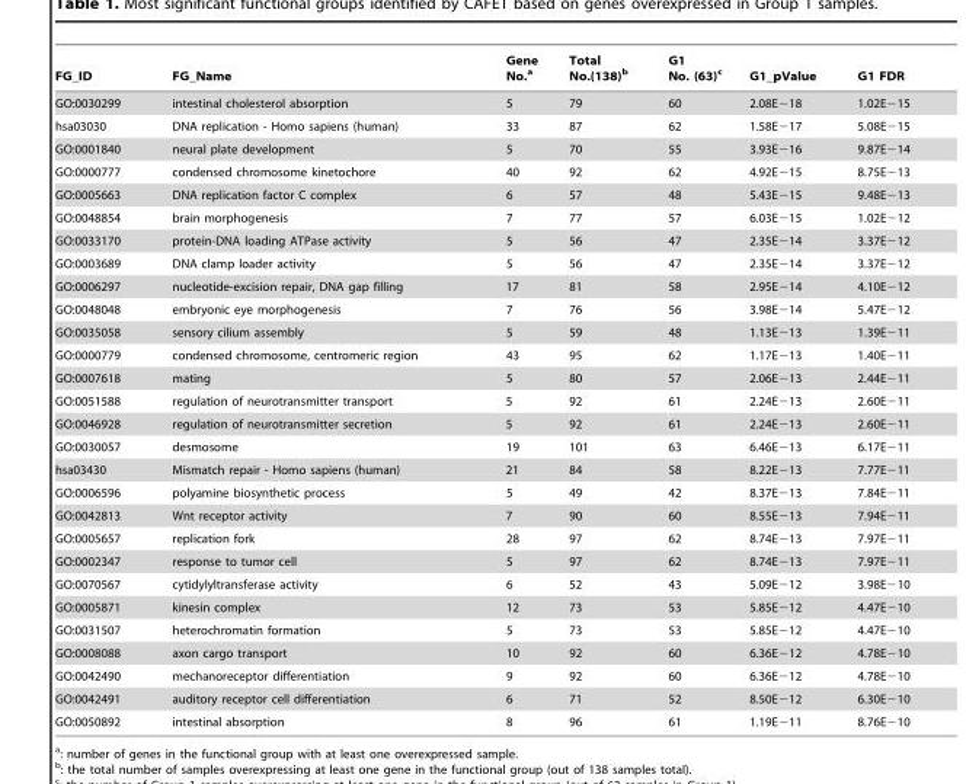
<table><thead><tr><td>FG_ID</td><td>FG_Name</td><td>Gene No.<sup>a</sup></td><td>Total No.(138)<sup>b</sup></td><td>G1 No. (63)<sup>c</sup></td><td>G1_pValue</td><td>G1 FDR</td></tr></thead><tbody><tr><td>GO:0030299</td><td>intestinal cholesterol absorption</td><td>5</td><td>79</td><td>60</td><td>2.08E−18</td><td>1.02E−15</td></tr><tr><td>hsa03030</td><td>DNA replication - Homo sapiens (human)</td><td>33</td><td>87</td><td>62</td><td>1.58E−17</td><td>5.08E−15</td></tr><tr><td>GO:0001840</td><td>neural plate development</td><td>5</td><td>70</td><td>55</td><td>3.93E−16</td><td>9.87E−14</td></tr><tr><td>GO:0000777</td><td>condensed chromosome kinetochore</td><td>40</td><td>92</td><td>62</td><td>4.92E−15</td><td>8.75E−13</td></tr><tr><td>GO:0005663</td><td>DNA replication factor C complex</td><td>6</td><td>57</td><td>48</td><td>5.43E−15</td><td>9.48E−13</td></tr><tr><td>GO:0048854</td><td>brain morphogenesis</td><td>7</td><td>77</td><td>57</td><td>6.03E−15</td><td>1.02E−12</td></tr><tr><td>GO:0033170</td><td>protein-DNA loading ATPase activity</td><td>5</td><td>56</td><td>47</td><td>2.35E−14</td><td>3.37E−12</td></tr><tr><td>GO:0003689</td><td>DNA clamp loader activity</td><td>5</td><td>56</td><td>47</td><td>2.35E−14</td><td>3.37E−12</td></tr><tr><td>GO:0006297</td><td>nucleotide-excision repair, DNA gap filling</td><td>17</td><td>81</td><td>58</td><td>2.95E−14</td><td>4.10E−12</td></tr><tr><td>GO:0048048</td><td>embryonic eye morphogenesis</td><td>7</td><td>76</td><td>56</td><td>3.98E−14</td><td>5.47E−12</td></tr><tr><td>GO:0035058</td><td>sensory cilium assembly</td><td>5</td><td>59</td><td>48</td><td>1.13E−13</td><td>1.39E−11</td></tr><tr><td>GO:0000779</td><td>condensed chromosome, centromeric region</td><td>43</td><td>95</td><td>62</td><td>1.17E−13</td><td>1.40E−11</td></tr><tr><td>GO:0007618</td><td>mating</td><td>5</td><td>80</td><td>57</td><td>2.06E−13</td><td>2.44E−11</td></tr><tr><td>GO:0051588</td><td>regulation of neurotransmitter transport</td><td>5</td><td>92</td><td>61</td><td>2.24E−13</td><td>2.60E−11</td></tr><tr><td>GO:0046928</td><td>regulation of neurotransmitter secretion</td><td>5</td><td>92</td><td>61</td><td>2.24E−13</td><td>2.60E−11</td></tr><tr><td>GO:0030057</td><td>desmosome</td><td>19</td><td>101</td><td>63</td><td>6.46E−13</td><td>6.17E−11</td></tr><tr><td>hsa03430</td><td>Mismatch repair - Homo sapiens (human)</td><td>21</td><td>84</td><td>58</td><td>8.22E−13</td><td>7.77E−11</td></tr><tr><td>GO:0006596</td><td>polyamine biosynthetic process</td><td>5</td><td>49</td><td>42</td><td>8.37E−13</td><td>7.84E−11</td></tr><tr><td>GO:0042813</td><td>Wnt receptor activity</td><td>7</td><td>90</td><td>60</td><td>8.55E−13</td><td>7.94E−11</td></tr><tr><td>GO:0005657</td><td>replication fork</td><td>28</td><td>97</td><td>62</td><td>8.74E−13</td><td>7.97E−11</td></tr><tr><td>GO:0002347</td><td>response to tumor cell</td><td>5</td><td>97</td><td>62</td><td>8.74E−13</td><td>7.97E−11</td></tr><tr><td>GO:0070567</td><td>cytidylyltransferase activity</td><td>6</td><td>52</td><td>43</td><td>5.09E−12</td><td>3.98E−10</td></tr><tr><td>GO:0005871</td><td>kinesin complex</td><td>12</td><td>73</td><td>53</td><td>5.85E−12</td><td>4.47E−10</td></tr><tr><td>GO:0031507</td><td>heterochromatin formation</td><td>5</td><td>73</td><td>53</td><td>5.85E−12</td><td>4.47E−10</td></tr><tr><td>GO:0008088</td><td>axon cargo transport</td><td>10</td><td>92</td><td>60</td><td>6.36E−12</td><td>4.78E−10</td></tr><tr><td>GO:0042490</td><td>mechanoreceptor differentiation</td><td>9</td><td>92</td><td>60</td><td>6.36E−12</td><td>4.78E−10</td></tr><tr><td>GO:0042491</td><td>auditory receptor cell differentiation</td><td>6</td><td>71</td><td>52</td><td>8.50E−12</td><td>6.30E−10</td></tr><tr><td>GO:0050892</td><td>intestinal absorption</td><td>8</td><td>96</td><td>61</td><td>1.19E−11</td><td>8.76E−10</td></tr></tbody></table>